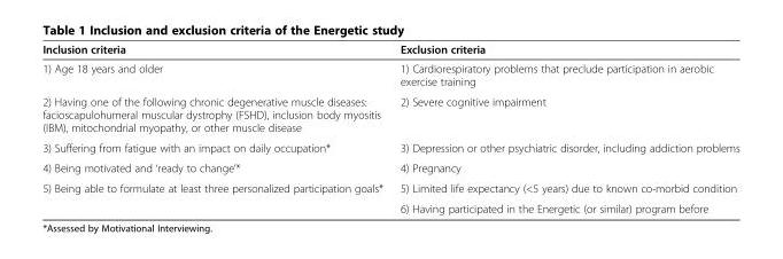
<table><thead><tr><td>Inclusion criteria</td><td>Exclusion criteria</td></tr></thead><tbody><tr><td>1) Age 18 years and older</td><td>1) Cardiorespiratory problems that preclude participation in aerobic exercise training</td></tr><tr><td>2) Having one of the following chronic degenerative muscle diseases: facioscapulohumeral muscular dystrophy (FSHD), inclusion body myositis (IBM), mitochondrial myopathy, or other muscle disease</td><td>2) Severe cognitive impairment</td></tr><tr><td>3) Suffering from fatigue with an impact on daily occupation*</td><td>3) Depression or other psychiatric disorder, including addiction problems</td></tr><tr><td>4) Being motivated and ‘ready to change’*</td><td>4) Pregnancy</td></tr><tr><td rowspan="2">5) Being able to formulate at least three personalized participation goals*</td><td>5) Limited life expectancy (&lt;5 years) due to known co-morbid condition</td></tr><tr><td>6) Having participated in the Energetic (or similar) program before</td></tr></tbody></table>